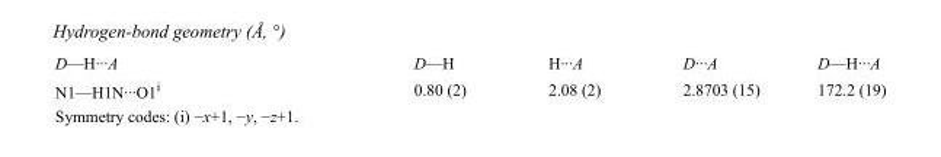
<table><tbody><tr><td>D—H···A</td><td>D—H</td><td>H···A</td><td>D···A</td><td>D—H···A</td></tr><tr><td>N1—H1N···O1<sup>i</sup></td><td>0.80 (2)</td><td>2.08 (2)</td><td>2.8703 (15)</td><td>172.2 (19)</td></tr></tbody></table>